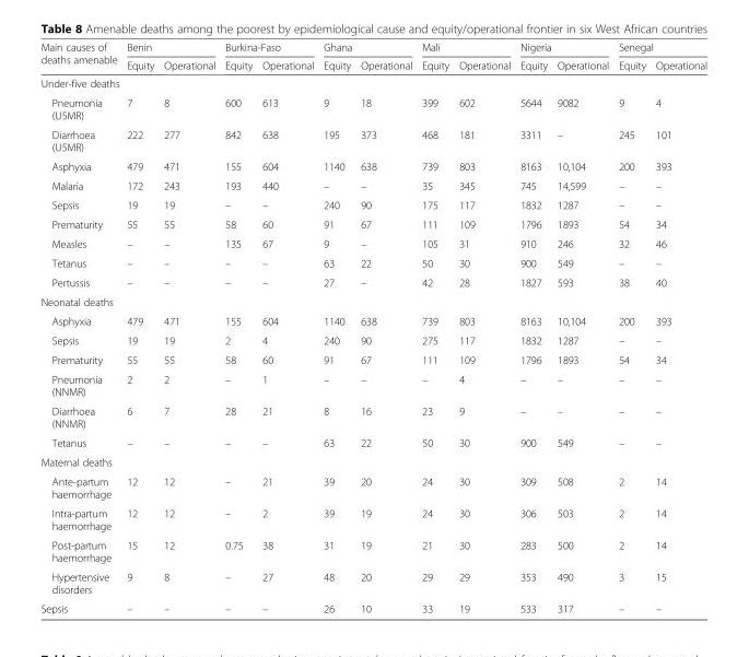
<table><thead><tr><td rowspan="2">Main causes of deaths amenable</td><td colspan="2">Benin</td><td colspan="2">Burkina-Faso</td><td colspan="2">Ghana</td><td colspan="2">Mali</td><td colspan="2">Nigeria</td><td colspan="2">Senegal</td></tr><tr><td>Equity</td><td>Operational</td><td>Equity</td><td>Operational</td><td>Equity</td><td>Operational</td><td>Equity</td><td>Operational</td><td>Equity</td><td>Operational</td><td>Equity</td><td>Operational</td></tr></thead><tbody><tr><td colspan="13">Under-five deaths</td></tr><tr><td>Pneumonia (U5MR)</td><td>7</td><td>8</td><td>600</td><td>613</td><td>9</td><td>18</td><td>399</td><td>602</td><td>5644</td><td>9082</td><td>9</td><td>4</td></tr><tr><td>Diarrhoea (U5MR)</td><td>222</td><td>277</td><td>842</td><td>638</td><td>195</td><td>373</td><td>468</td><td>181</td><td>3311</td><td>–</td><td>245</td><td>101</td></tr><tr><td>Asphyxia</td><td>479</td><td>471</td><td>155</td><td>604</td><td>1140</td><td>638</td><td>739</td><td>803</td><td>8163</td><td>10,104</td><td>200</td><td>393</td></tr><tr><td>Malaria</td><td>172</td><td>243</td><td>193</td><td>440</td><td>–</td><td>–</td><td>35</td><td>345</td><td>745</td><td>14,599</td><td>–</td><td>–</td></tr><tr><td>Sepsis</td><td>19</td><td>19</td><td>–</td><td>–</td><td>240</td><td>90</td><td>175</td><td>117</td><td>1832</td><td>1287</td><td>–</td><td>–</td></tr><tr><td>Prematurity</td><td>55</td><td>55</td><td>58</td><td>60</td><td>91</td><td>67</td><td>111</td><td>109</td><td>1796</td><td>1893</td><td>54</td><td>34</td></tr><tr><td>Measles</td><td>–</td><td>–</td><td>135</td><td>67</td><td>9</td><td>–</td><td>105</td><td>31</td><td>910</td><td>246</td><td>32</td><td>46</td></tr><tr><td>Tetanus</td><td>–</td><td>–</td><td>–</td><td>–</td><td>63</td><td>22</td><td>50</td><td>30</td><td>900</td><td>549</td><td>–</td><td>–</td></tr><tr><td>Pertussis</td><td>–</td><td>–</td><td>–</td><td>–</td><td>27</td><td>–</td><td>42</td><td>28</td><td>1827</td><td>593</td><td>38</td><td>40</td></tr><tr><td colspan="13">Neonatal deaths</td></tr><tr><td>Asphyxia</td><td>479</td><td>471</td><td>155</td><td>604</td><td>1140</td><td>638</td><td>739</td><td>803</td><td>8163</td><td>10,104</td><td>200</td><td>393</td></tr><tr><td>Sepsis</td><td>19</td><td>19</td><td>2</td><td>4</td><td>240</td><td>90</td><td>275</td><td>117</td><td>1832</td><td>1287</td><td>–</td><td>–</td></tr><tr><td>Prematurity</td><td>55</td><td>55</td><td>58</td><td>60</td><td>91</td><td>67</td><td>111</td><td>109</td><td>1796</td><td>1893</td><td>54</td><td>34</td></tr><tr><td>Pneumonia (NNMR)</td><td>2</td><td>2</td><td>–</td><td>1</td><td>–</td><td>–</td><td>–</td><td>4</td><td>–</td><td>–</td><td>–</td><td>–</td></tr><tr><td>Diarrhoea (NNMR)</td><td>6</td><td>7</td><td>28</td><td>21</td><td>8</td><td>16</td><td>23</td><td>9</td><td>–</td><td>–</td><td>–</td><td>–</td></tr><tr><td>Tetanus</td><td>–</td><td>–</td><td>–</td><td>–</td><td>63</td><td>22</td><td>50</td><td>30</td><td>900</td><td>549</td><td>–</td><td>–</td></tr><tr><td colspan="13">Maternal deaths</td></tr><tr><td>Ante-partum haemorrhage</td><td>12</td><td>12</td><td>–</td><td>21</td><td>39</td><td>20</td><td>24</td><td>30</td><td>309</td><td>508</td><td>2</td><td>14</td></tr><tr><td>Intra-partum haemorrhage</td><td>12</td><td>12</td><td>–</td><td>2</td><td>39</td><td>19</td><td>24</td><td>30</td><td>306</td><td>503</td><td>2</td><td>14</td></tr><tr><td>Post-partum haemorrhage</td><td>15</td><td>12</td><td>0.75</td><td>38</td><td>31</td><td>19</td><td>21</td><td>30</td><td>283</td><td>500</td><td>2</td><td>14</td></tr><tr><td>Hypertensive disorders</td><td>9</td><td>8</td><td>–</td><td>27</td><td>48</td><td>20</td><td>29</td><td>29</td><td>353</td><td>490</td><td>3</td><td>15</td></tr><tr><td>Sepsis</td><td>–</td><td>–</td><td>–</td><td>–</td><td>26</td><td>10</td><td>33</td><td>19</td><td>533</td><td>317</td><td>–</td><td>–</td></tr></tbody></table>